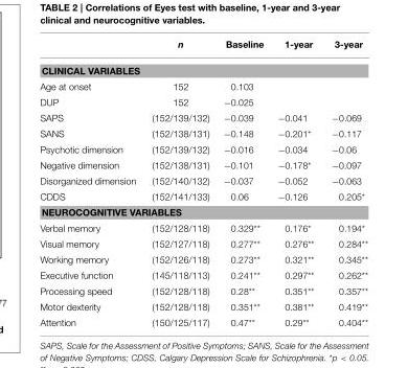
<table><thead><tr><td></td><td>n</td><td>Baseline</td><td>1-year</td><td>3-year</td></tr></thead><tbody><tr><td colspan="5">CLINICAL VARIABLES</td></tr><tr><td>Age at onset</td><td>152</td><td>0.103</td><td></td><td></td></tr><tr><td>DUP</td><td>152</td><td>−0.025</td><td></td><td></td></tr><tr><td>SAPS</td><td>(152/139/132)</td><td>−0.039</td><td>−0.041</td><td>−0.069</td></tr><tr><td>SANS</td><td>(152/138/131)</td><td>−0.148</td><td>−0.201*</td><td>−0.117</td></tr><tr><td>Psychotic dimension</td><td>(152/139/132)</td><td>−0.016</td><td>−0.034</td><td>−0.06</td></tr><tr><td>Negative dimension</td><td>(152/138/131)</td><td>−0.101</td><td>−0.178*</td><td>−0.097</td></tr><tr><td>Disorganized dimension</td><td>(152/140/132)</td><td>−0.037</td><td>−0.052</td><td>−0.063</td></tr><tr><td>CDDS</td><td>(152/141/133)</td><td>0.06</td><td>−0.126</td><td>0.205*</td></tr><tr><td colspan="5">NEUROCOGNITIVE VARIABLES</td></tr><tr><td>Verbal memory</td><td>(152/128/118)</td><td>0.329**</td><td>0.176*</td><td>0.194*</td></tr><tr><td>Visual memory</td><td>(152/127/118)</td><td>0.277**</td><td>0.276**</td><td>0.284**</td></tr><tr><td>Working memory</td><td>(152/126/118)</td><td>0.273**</td><td>0.321**</td><td>0.345**</td></tr><tr><td>Executive function</td><td>(145/118/113)</td><td>0.241**</td><td>0.297**</td><td>0.262**</td></tr><tr><td>Processing speed</td><td>(152/128/118)</td><td>0.28**</td><td>0.351**</td><td>0.357**</td></tr><tr><td>Motor dexterity</td><td>(152/128/118)</td><td>0.351**</td><td>0.381**</td><td>0.419**</td></tr><tr><td>Attention</td><td>(150/125/117)</td><td>0.47**</td><td>0.29**</td><td>0.404**</td></tr></tbody></table>